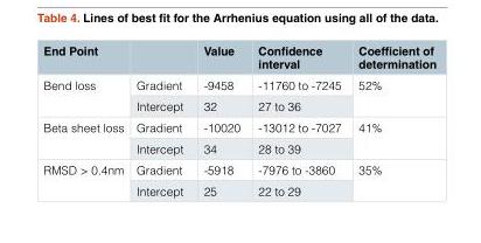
<table><thead><tr><td>End Point</td><td></td><td>Value</td><td>Confidence interval</td><td>Coefficient of determination</td></tr></thead><tbody><tr><td rowspan="2">Bend loss</td><td>Gradient</td><td>-9458</td><td>-11760 to -7245</td><td rowspan="2">52%</td></tr><tr><td>Intercept</td><td>32</td><td>27 to 36</td></tr><tr><td rowspan="2">Beta sheet loss</td><td>Gradient</td><td>-10020</td><td>-13012 to -7027</td><td rowspan="2">41%</td></tr><tr><td>Intercept</td><td>34</td><td>28 to 39</td></tr><tr><td rowspan="2">RMSD &gt; 0.4nm</td><td>Gradient</td><td>-5918</td><td>-7976 to -3860</td><td rowspan="2">35%</td></tr><tr><td>Intercept</td><td>25</td><td>22 to 29</td></tr></tbody></table>